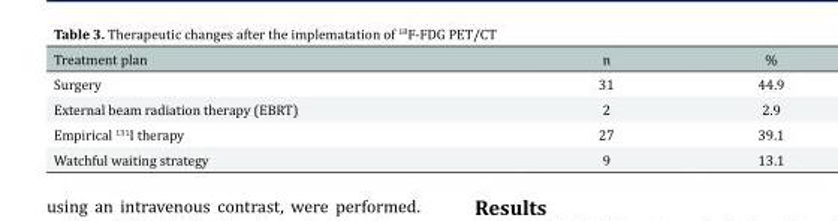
<table><thead><tr><td>Treatment plan</td><td>n</td><td>%</td></tr></thead><tbody><tr><td>Surgery</td><td>31</td><td>44.9</td></tr><tr><td>External beam radiation therapy (EBRT)</td><td>2</td><td>2.9</td></tr><tr><td>Empirical <sup>131</sup>I therapy</td><td>27</td><td>39.1</td></tr><tr><td>Watchful waiting strategy</td><td>9</td><td>13.1</td></tr></tbody></table>